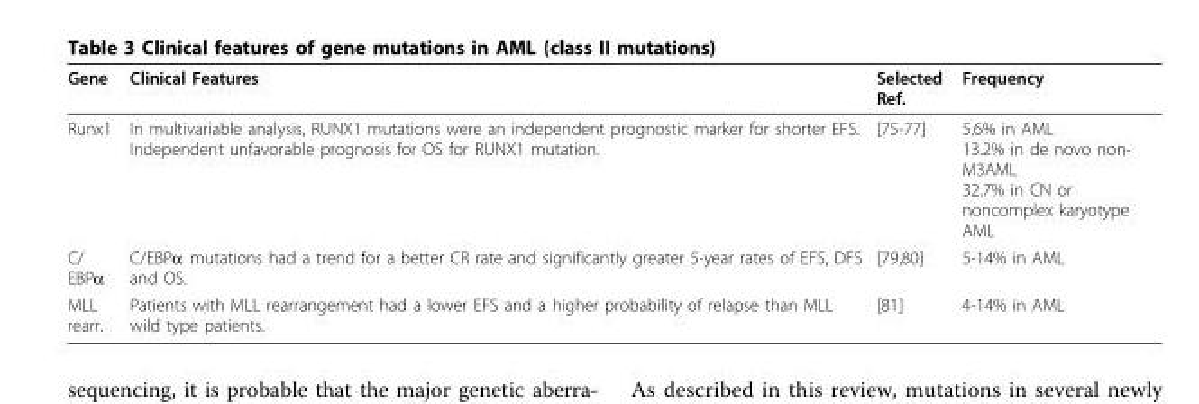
<table><thead><tr><td>Gene</td><td>Clinical Features</td><td>Selected Ref.</td><td>Frequency</td></tr></thead><tbody><tr><td>Runx1</td><td>In multivariable analysis, RUNX1 mutations were an independent prognostic marker for shorter EFS. Independent unfavorable prognosis for OS for RUNX1 mutation.</td><td>[75-77]</td><td>5.6% in AML 13.2% in de novo non- M3AML 32.7% in CN or noncomplex karyotype AML</td></tr><tr><td>C/ EBPα</td><td>C/EBPα mutations had a trend for a better CR rate and significantly greater 5-year rates of EFS, DFS and OS.</td><td>[79,80]</td><td>5-14% in AML</td></tr><tr><td>MLL rearr.</td><td>Patients with MLL rearrangement had a lower EFS and a higher probability of relapse than MLL wild type patients.</td><td>[81]</td><td>4-14% in AML</td></tr></tbody></table>